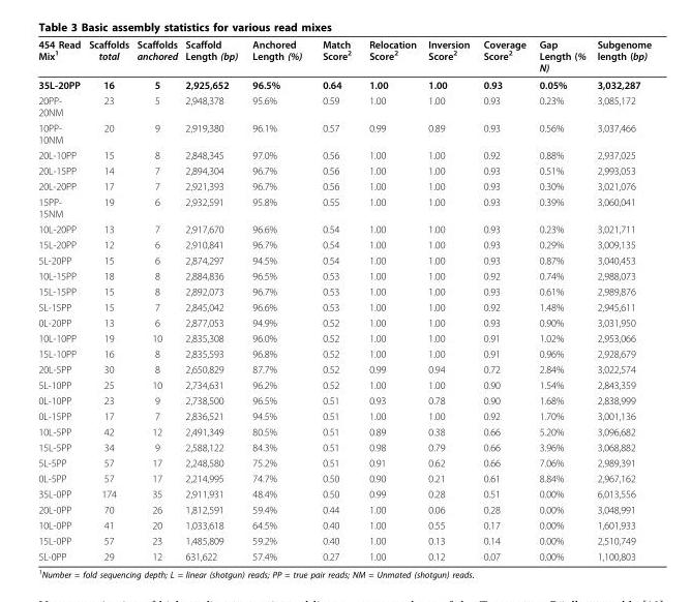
<table><thead><tr><td>454 Read Mix<sup>1</sup></td><td>Scaffolds total</td><td>Scaffolds anchored</td><td>Scaffold Length (bp)</td><td>Anchored Length (%)</td><td>Match Score<sup>2</sup></td><td>Relocation Score<sup>2</sup></td><td>Inversion Score<sup>2</sup></td><td>Coverage Score<sup>2</sup></td><td>Gap Length (% N)</td><td>Subgenome length (bp)</td></tr></thead><tbody><tr><td>35L-20PP</td><td>16</td><td>5</td><td>2,925,652</td><td>96.5%</td><td>0.64</td><td>1.00</td><td>1.00</td><td>0.93</td><td>0.05%</td><td>3,032,287</td></tr><tr><td>20PP- 20NM</td><td>23</td><td>5</td><td>2,948,378</td><td>95.6%</td><td>0.59</td><td>1.00</td><td>1.00</td><td>0.93</td><td>0.23%</td><td>3,085,172</td></tr><tr><td>10PP- 10NM</td><td>20</td><td>9</td><td>2,919,380</td><td>96.1%</td><td>0.57</td><td>0.99</td><td>0.89</td><td>0.93</td><td>0.56%</td><td>3,037,466</td></tr><tr><td>20L-10PP</td><td>15</td><td>8</td><td>2,848,345</td><td>97.0%</td><td>0.56</td><td>1.00</td><td>1.00</td><td>0.92</td><td>0.88%</td><td>2,937,025</td></tr><tr><td>20L-15PP</td><td>14</td><td>7</td><td>2,894,304</td><td>96.7%</td><td>0.56</td><td>1.00</td><td>1.00</td><td>0.93</td><td>0.51%</td><td>2,993,053</td></tr><tr><td>20L-20PP</td><td>17</td><td>7</td><td>2,921,393</td><td>96.7%</td><td>0.56</td><td>1.00</td><td>1.00</td><td>0.93</td><td>0.30%</td><td>3,021,076</td></tr><tr><td>15PP- 15NM</td><td>19</td><td>6</td><td>2,932,591</td><td>95.8%</td><td>0.55</td><td>1.00</td><td>1.00</td><td>0.93</td><td>0.39%</td><td>3,060,041</td></tr><tr><td>10L-20PP</td><td>13</td><td>7</td><td>2,917,670</td><td>96.6%</td><td>0.54</td><td>1.00</td><td>1.00</td><td>0.93</td><td>0.23%</td><td>3,021,711</td></tr><tr><td>15L-20PP</td><td>12</td><td>6</td><td>2,910,841</td><td>96.7%</td><td>0.54</td><td>1.00</td><td>1.00</td><td>0.93</td><td>0.29%</td><td>3,009,135</td></tr><tr><td>5L-20PP</td><td>15</td><td>6</td><td>2,874,297</td><td>94.5%</td><td>0.54</td><td>1.00</td><td>1.00</td><td>0.93</td><td>0.87%</td><td>3,040,453</td></tr><tr><td>10L-15PP</td><td>18</td><td>8</td><td>2,884,836</td><td>96.5%</td><td>0.53</td><td>1.00</td><td>1.00</td><td>0.92</td><td>0.74%</td><td>2,988,073</td></tr><tr><td>15L-15PP</td><td>15</td><td>8</td><td>2,892,073</td><td>96.7%</td><td>0.53</td><td>1.00</td><td>1.00</td><td>0.93</td><td>0.61%</td><td>2,989,876</td></tr><tr><td>5L-15PP</td><td>15</td><td>7</td><td>2,845,042</td><td>96.6%</td><td>0.53</td><td>1.00</td><td>1.00</td><td>0.92</td><td>1.48%</td><td>2,945,611</td></tr><tr><td>0L-20PP</td><td>13</td><td>6</td><td>2,877,053</td><td>94.9%</td><td>0.52</td><td>1.00</td><td>1.00</td><td>0.93</td><td>0.90%</td><td>3,031,950</td></tr><tr><td>10L-10PP</td><td>19</td><td>10</td><td>2,835,308</td><td>96.0%</td><td>0.52</td><td>1.00</td><td>1.00</td><td>0.91</td><td>1.02%</td><td>2,953,066</td></tr><tr><td>15L-10PP</td><td>16</td><td>8</td><td>2,835,593</td><td>96.8%</td><td>0.52</td><td>1.00</td><td>1.00</td><td>0.91</td><td>0.96%</td><td>2,928,679</td></tr><tr><td>20L-5PP</td><td>30</td><td>8</td><td>2,650,829</td><td>87.7%</td><td>0.52</td><td>0.99</td><td>0.94</td><td>0.72</td><td>2.84%</td><td>3,022,574</td></tr><tr><td>5L-10PP</td><td>25</td><td>10</td><td>2,734,631</td><td>96.2%</td><td>0.52</td><td>1.00</td><td>1.00</td><td>0.90</td><td>1.54%</td><td>2,843,359</td></tr><tr><td>0L-10PP</td><td>23</td><td>9</td><td>2,738,500</td><td>96.5%</td><td>0.51</td><td>0.93</td><td>0.78</td><td>0.90</td><td>1.68%</td><td>2,838,999</td></tr><tr><td>0L-15PP</td><td>17</td><td>7</td><td>2,836,521</td><td>94.5%</td><td>0.51</td><td>1.00</td><td>1.00</td><td>0.92</td><td>1.70%</td><td>3,001,136</td></tr><tr><td>10L-5PP</td><td>42</td><td>12</td><td>2,491,349</td><td>80.5%</td><td>0.51</td><td>0.89</td><td>0.38</td><td>0.66</td><td>5.20%</td><td>3,096,682</td></tr><tr><td>15L-5PP</td><td>34</td><td>9</td><td>2,588,122</td><td>84.3%</td><td>0.51</td><td>0.98</td><td>0.79</td><td>0.66</td><td>3.96%</td><td>3,068,882</td></tr><tr><td>5L-5PP</td><td>57</td><td>17</td><td>2,248,580</td><td>75.2%</td><td>0.51</td><td>0.91</td><td>0.62</td><td>0.66</td><td>7.06%</td><td>2,989,391</td></tr><tr><td>0L-5PP</td><td>57</td><td>17</td><td>2,214,995</td><td>74.7%</td><td>0.50</td><td>0.90</td><td>0.21</td><td>0.61</td><td>8.84%</td><td>2,967,162</td></tr><tr><td>35L-0PP</td><td>174</td><td>35</td><td>2,911,931</td><td>48.4%</td><td>0.50</td><td>0.99</td><td>0.28</td><td>0.51</td><td>0.00%</td><td>6,013,556</td></tr><tr><td>20L-0PP</td><td>70</td><td>26</td><td>1,812,591</td><td>59.4%</td><td>0.44</td><td>1.00</td><td>0.06</td><td>0.28</td><td>0.00%</td><td>3,048,991</td></tr><tr><td>10L-0PP</td><td>41</td><td>20</td><td>1,033,618</td><td>64.5%</td><td>0.40</td><td>1.00</td><td>0.55</td><td>0.17</td><td>0.00%</td><td>1,601,933</td></tr><tr><td>15L-0PP</td><td>57</td><td>23</td><td>1,485,809</td><td>59.2%</td><td>0.40</td><td>1.00</td><td>0.13</td><td>0.14</td><td>0.00%</td><td>2,510,749</td></tr><tr><td>5L-0PP</td><td>29</td><td>12</td><td>631,622</td><td>57.4%</td><td>0.27</td><td>1.00</td><td>0.12</td><td>0.07</td><td>0.00%</td><td>1,100,803</td></tr></tbody></table>